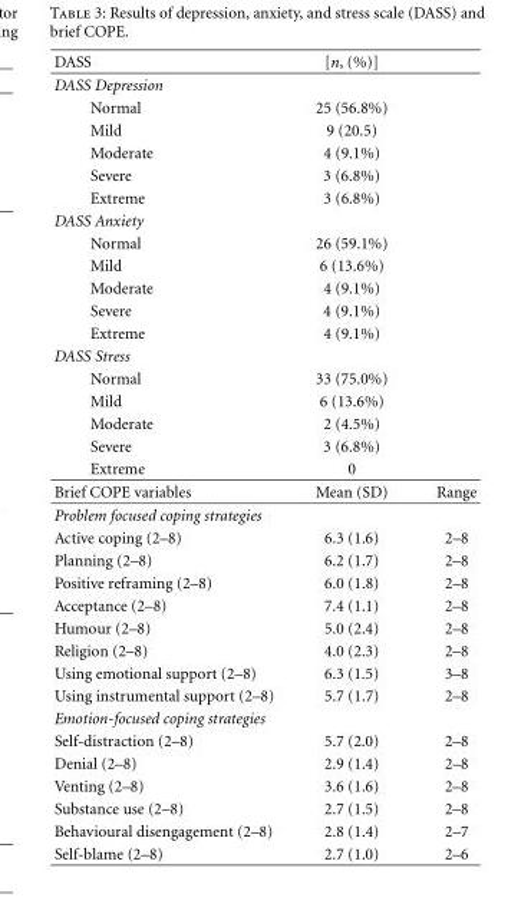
<table><thead><tr><td>DASS</td><td>[n, (%)]</td><td></td></tr></thead><tbody><tr><td colspan="3">DASS Depression</td></tr><tr><td>Normal</td><td>25 (56.8%)</td><td></td></tr><tr><td>Mild</td><td>9 (20.5)</td><td></td></tr><tr><td>Moderate</td><td>4 (9.1%)</td><td></td></tr><tr><td>Severe</td><td>3 (6.8%)</td><td></td></tr><tr><td>Extreme</td><td>3 (6.8%)</td><td></td></tr><tr><td colspan="3">DASS Anxiety</td></tr><tr><td>Normal</td><td>26 (59.1%)</td><td></td></tr><tr><td>Mild</td><td>6 (13.6%)</td><td></td></tr><tr><td>Moderate</td><td>4 (9.1%)</td><td></td></tr><tr><td>Severe</td><td>4 (9.1%)</td><td></td></tr><tr><td>Extreme</td><td>4 (9.1%)</td><td></td></tr><tr><td colspan="3">DASS Stress</td></tr><tr><td>Normal</td><td>33 (75.0%)</td><td></td></tr><tr><td>Mild</td><td>6 (13.6%)</td><td></td></tr><tr><td>Moderate</td><td>2 (4.5%)</td><td></td></tr><tr><td>Severe</td><td>3 (6.8%)</td><td></td></tr><tr><td>Extreme</td><td>0</td><td></td></tr><tr><td>Brief COPE variables</td><td>Mean (SD)</td><td>Range</td></tr><tr><td colspan="3">Problem focused coping strategies</td></tr><tr><td>Active coping (2–8)</td><td>6.3 (1.6)</td><td>2–8</td></tr><tr><td>Planning (2–8)</td><td>6.2 (1.7)</td><td>2–8</td></tr><tr><td>Positive reframing (2–8)</td><td>6.0 (1.8)</td><td>2–8</td></tr><tr><td>Acceptance (2–8)</td><td>7.4 (1.1)</td><td>2–8</td></tr><tr><td>Humour (2–8)</td><td>5.0 (2.4)</td><td>2–8</td></tr><tr><td>Religion (2–8)</td><td>4.0 (2.3)</td><td>2–8</td></tr><tr><td>Using emotional support (2–8)</td><td>6.3 (1.5)</td><td>3–8</td></tr><tr><td>Using instrumental support (2–8)</td><td>5.7 (1.7)</td><td>2–8</td></tr><tr><td colspan="3">Emotion-focused coping strategies</td></tr><tr><td>Self-distraction (2–8)</td><td>5.7 (2.0)</td><td>2–8</td></tr><tr><td>Denial (2–8)</td><td>2.9 (1.4)</td><td>2–8</td></tr><tr><td>Venting (2–8)</td><td>3.6 (1.6)</td><td>2–8</td></tr><tr><td>Substance use (2–8)</td><td>2.7 (1.5)</td><td>2–8</td></tr><tr><td>Behavioural disengagement (2–8)</td><td>2.8 (1.4)</td><td>2–7</td></tr><tr><td>Self-blame (2–8)</td><td>2.7 (1.0)</td><td>2–6</td></tr></tbody></table>